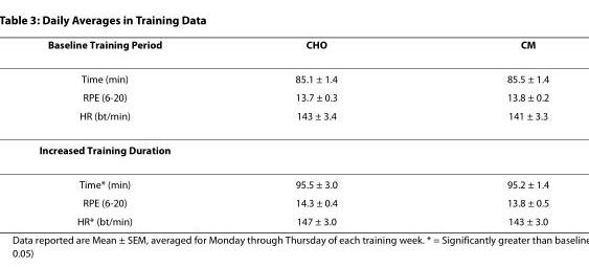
<table><thead><tr><td>Baseline Training Period</td><td>CHO</td><td>CM</td></tr></thead><tbody><tr><td>Time (min)</td><td>85.1 ± 1.4</td><td>85.5 ± 1.4</td></tr><tr><td>RPE (6-20)</td><td>13.7 ± 0.3</td><td>13.8 ± 0.2</td></tr><tr><td>HR (bt/min)</td><td>143 ± 3.4</td><td>141 ± 3.3</td></tr><tr><td colspan="3">Increased Training Duration</td></tr><tr><td>Time* (min)</td><td>95.5 ± 3.0</td><td>95.2 ± 1.4</td></tr><tr><td>RPE (6-20)</td><td>14.3 ± 0.4</td><td>13.8 ± 0.5</td></tr><tr><td>HR* (bt/min)</td><td>147 ± 3.0</td><td>143 ± 3.0</td></tr></tbody></table>